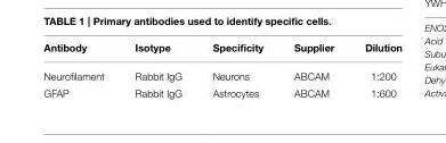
<table><thead><tr><td>Antibody</td><td>Isotype</td><td>Specificity</td><td>Supplier</td><td>Dilution</td></tr></thead><tbody><tr><td>Neurofilament</td><td>Rabbit IgG</td><td>Neurons</td><td>ABCAM</td><td>1:200</td></tr><tr><td>GFAP</td><td>Rabbit IgG</td><td>Astrocytes</td><td>ABCAM</td><td>1:600</td></tr></tbody></table>